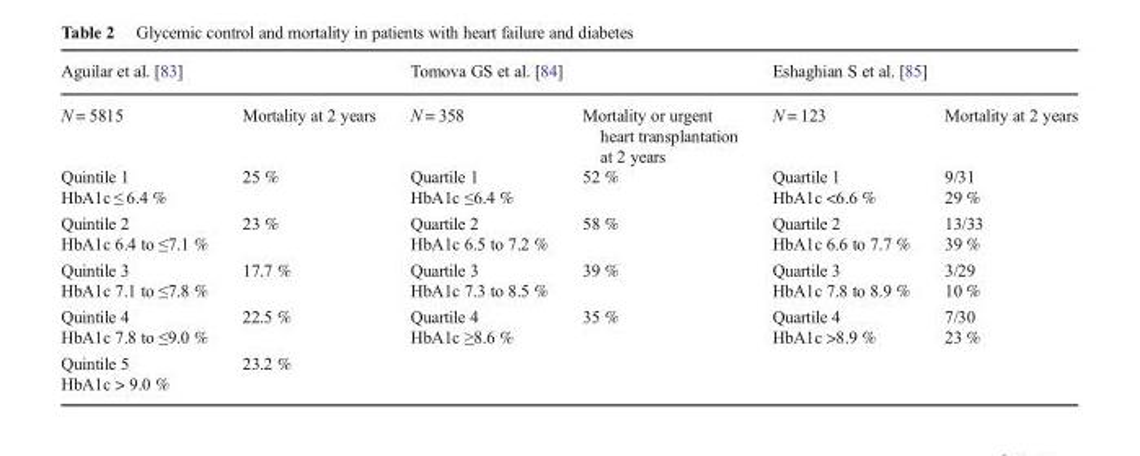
<table><thead><tr><td colspan="2">Aguilar et al. [83]</td><td colspan="2">Tomova GS et al. [84]</td><td colspan="2">Eshaghian S et al. [85]</td></tr><tr><td>N = 5815</td><td>Mortality at 2 years</td><td>N = 358</td><td>Mortality or urgent heart transplantation at 2 years</td><td>N = 123</td><td>Mortality at 2 years</td></tr></thead><tbody><tr><td>Quintile 1 HbA1c ≤ 6.4 %</td><td>25 %</td><td>Quartile 1 HbA1c ≤6.4 %</td><td>52 %</td><td>Quartile 1 HbA1c &lt;6.6 %</td><td>9/31 29 %</td></tr><tr><td>Quintile 2 HbA1c 6.4 to ≤7.1 %</td><td>23 %</td><td>Quartile 2 HbA1c 6.5 to 7.2 %</td><td>58 %</td><td>Quartile 2 HbA1c 6.6 to 7.7 %</td><td>13/33 39 %</td></tr><tr><td>Quintile 3 HbA1c 7.1 to ≤7.8 %</td><td>17.7 %</td><td>Quartile 3 HbA1c 7.3 to 8.5 %</td><td>39 %</td><td>Quartile 3 HbA1c 7.8 to 8.9 %</td><td>3/29 10 %</td></tr><tr><td>Quintile 4 HbA1c 7.8 to ≤9.0 %</td><td>22.5 %</td><td>Quartile 4 HbA1c ≥8.6 %</td><td>35 %</td><td>Quartile 4 HbA1c &gt;8.9 %</td><td>7/30 23 %</td></tr><tr><td>Quintile 5 HbA1c &gt; 9.0 %</td><td>23.2 %</td><td></td><td></td><td></td><td></td></tr></tbody></table>